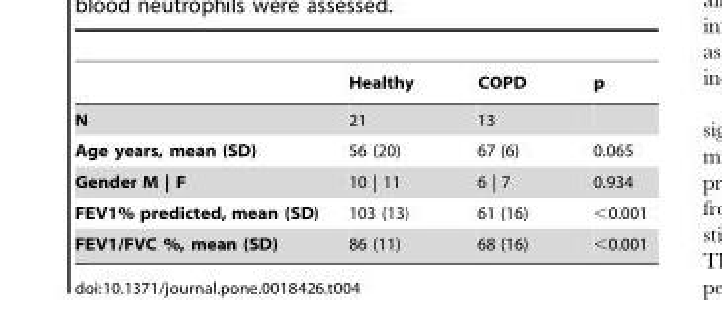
<table><thead><tr><td></td><td>Healthy</td><td>COPD</td><td>p</td></tr></thead><tbody><tr><td>N</td><td>21</td><td>13</td><td></td></tr><tr><td>Age years, mean (SD)</td><td>56 (20)</td><td>67 (6)</td><td>0.065</td></tr><tr><td>Gender M | F</td><td>10 | 11</td><td>6 | 7</td><td>0.934</td></tr><tr><td>FEV1% predicted, mean (SD)</td><td>103 (13)</td><td>61 (16)</td><td>&lt;0.001</td></tr><tr><td>FEV1/FVC %, mean (SD)</td><td>86 (11)</td><td>68 (16)</td><td>&lt;0.001</td></tr></tbody></table>